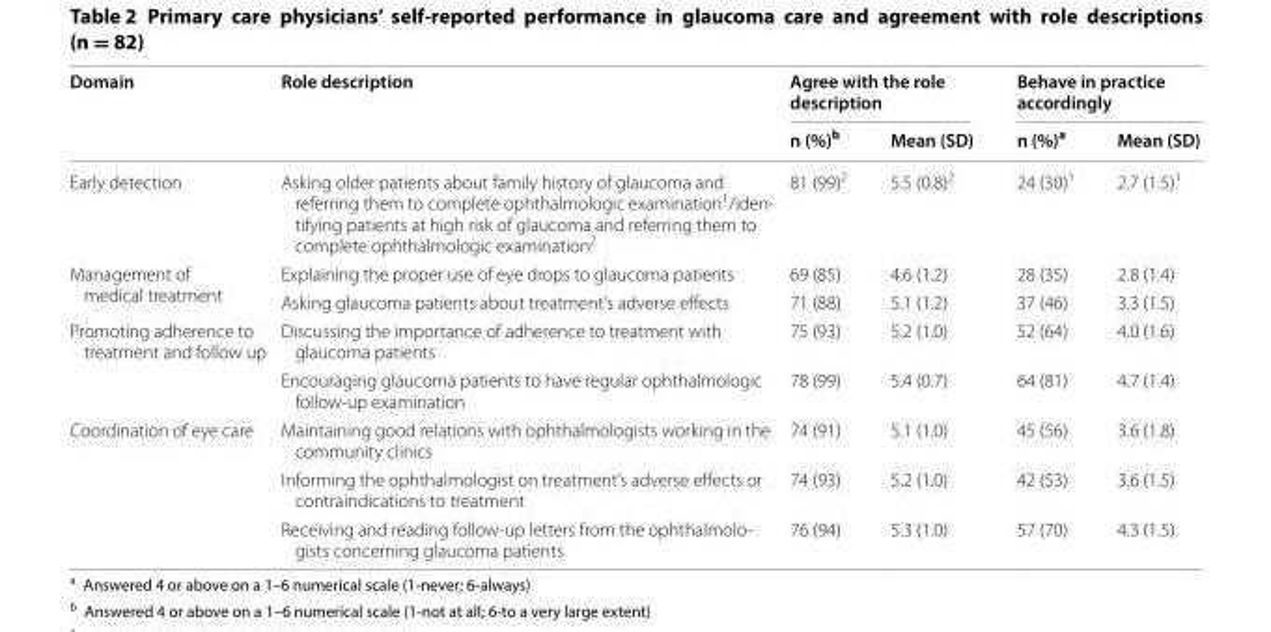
<table><thead><tr><td rowspan="2">Domain</td><td rowspan="2">Role description</td><td colspan="2">Agree with the role description</td><td colspan="2">Behave in practice accordingly</td></tr><tr><td>n (%)<sup>b</sup></td><td>Mean (SD)</td><td>n (%)<sup>a</sup></td><td>Mean (SD)</td></tr></thead><tbody><tr><td>Early detection</td><td>Asking older patients about family history of glaucoma and referring them to complete ophthalmologic examination1/iden- tifying patients at high risk of glaucoma and referring them to complete ophthalmologic examination2</td><td>81 (99)<sup>2</sup></td><td>5.5 (0.8)<sup>2</sup></td><td>24 (30)<sup>1</sup></td><td>2.7 (1.5)<sup>1</sup></td></tr><tr><td rowspan="2">Management of medical treatment</td><td>Explaining the proper use of eye drops to glaucoma patients</td><td>69 (85)</td><td>4.6 (1.2)</td><td>28 (35)</td><td>2.8 (1.4)</td></tr><tr><td>Asking glaucoma patients about treatment’s adverse effects</td><td>71 (88)</td><td>5.1 (1.2)</td><td>37 (46)</td><td>3.3 (1.5)</td></tr><tr><td rowspan="2">Promoting adherence to treatment and follow up</td><td>Discussing the importance of adherence to treatment with glaucoma patients</td><td>75 (93)</td><td>5.2 (1.0)</td><td>52 (64)</td><td>4.0 (1.6)</td></tr><tr><td>Encouraging glaucoma patients to have regular ophthalmologic follow-up examination</td><td>78 (99)</td><td>5.4 (0.7)</td><td>64 (81)</td><td>4.7 (1.4)</td></tr><tr><td rowspan="3">Coordination of eye care</td><td>Maintaining good relations with ophthalmologists working in the community clinics</td><td>74 (91)</td><td>5.1 (1.0)</td><td>45 (56)</td><td>3.6 (1.8)</td></tr><tr><td>Informing the ophthalmologist on treatment’s adverse effects or contraindications to treatment</td><td>74 (93)</td><td>5.2 (1.0)</td><td>42 (53)</td><td>3.6 (1.5)</td></tr><tr><td>Receiving and reading follow-up letters from the ophthalmolo- gists concerning glaucoma patients</td><td>76 (94)</td><td>5.3 (1.0)</td><td>57 (70)</td><td>4.3 (1.5)</td></tr></tbody></table>